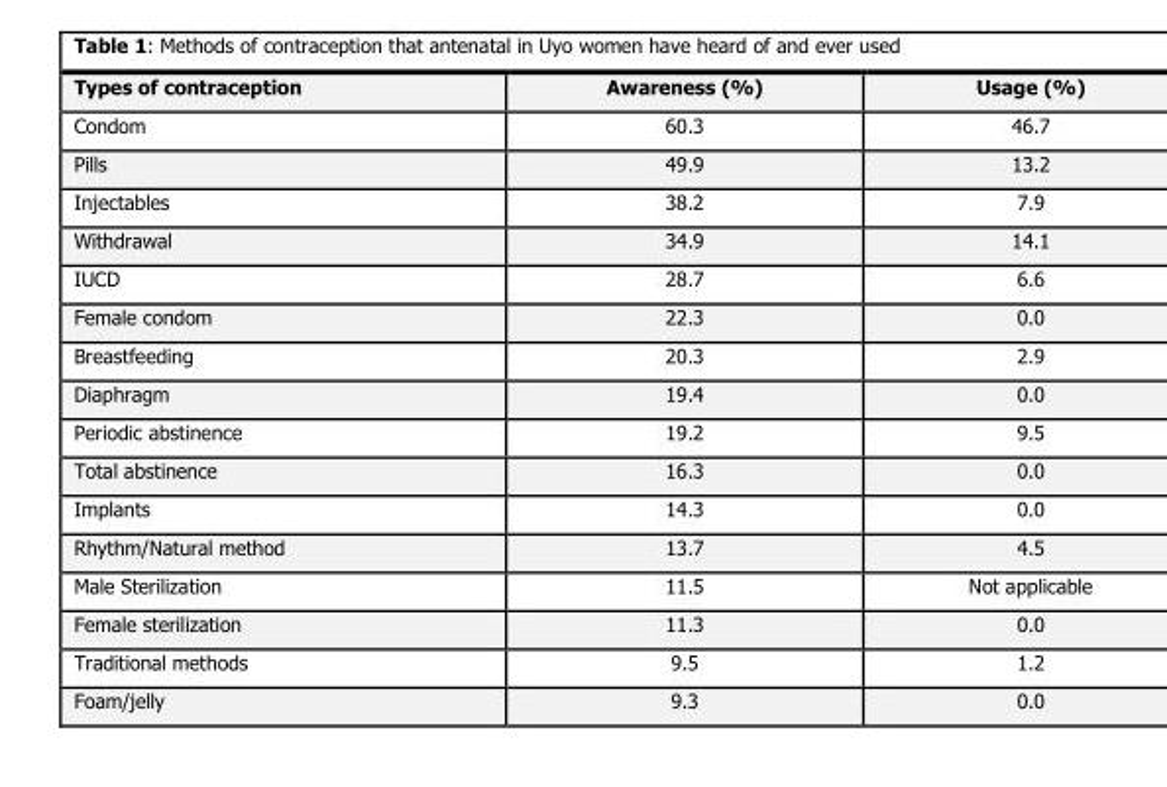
<table><thead><tr><td>Types of contraception</td><td>Awareness (%)</td><td>Usage (%)</td></tr></thead><tbody><tr><td>Condom</td><td>60.3</td><td>46.7</td></tr><tr><td>Pills</td><td>49.9</td><td>13.2</td></tr><tr><td>Injectables</td><td>38.2</td><td>7.9</td></tr><tr><td>Withdrawal</td><td>34.9</td><td>14.1</td></tr><tr><td>IUCD</td><td>28.7</td><td>6.6</td></tr><tr><td>Female condom</td><td>22.3</td><td>0.0</td></tr><tr><td>Breastfeeding</td><td>20.3</td><td>2.9</td></tr><tr><td>Diaphragm</td><td>19.4</td><td>0.0</td></tr><tr><td>Periodic abstinence</td><td>19.2</td><td>9.5</td></tr><tr><td>Total abstinence</td><td>16.3</td><td>0.0</td></tr><tr><td>Implants</td><td>14.3</td><td>0.0</td></tr><tr><td>Rhythm/Natural method</td><td>13.7</td><td>4.5</td></tr><tr><td>Male Sterilization</td><td>11.5</td><td>Not applicable</td></tr><tr><td>Female sterilization</td><td>11.3</td><td>0.0</td></tr><tr><td>Traditional methods</td><td>9.5</td><td>1.2</td></tr><tr><td>Foam/jelly</td><td>9.3</td><td>0.0</td></tr></tbody></table>